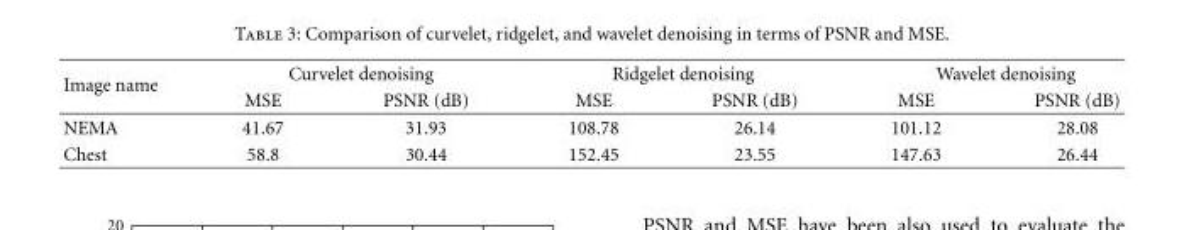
<table><thead><tr><td rowspan="2">Image name</td><td colspan="2">Curvelet denoising</td><td colspan="2">Ridgelet denoising</td><td colspan="2">Wavelet denoising</td></tr><tr><td>MSE</td><td>PSNR (dB)</td><td>MSE</td><td>PSNR (dB)</td><td>MSE</td><td>PSNR (dB)</td></tr></thead><tbody><tr><td>NEMA</td><td>41.67</td><td>31.93</td><td>108.78</td><td>26.14</td><td>101.12</td><td>28.08</td></tr><tr><td>Chest</td><td>58.8</td><td>30.44</td><td>152.45</td><td>23.55</td><td>147.63</td><td>26.44</td></tr></tbody></table>